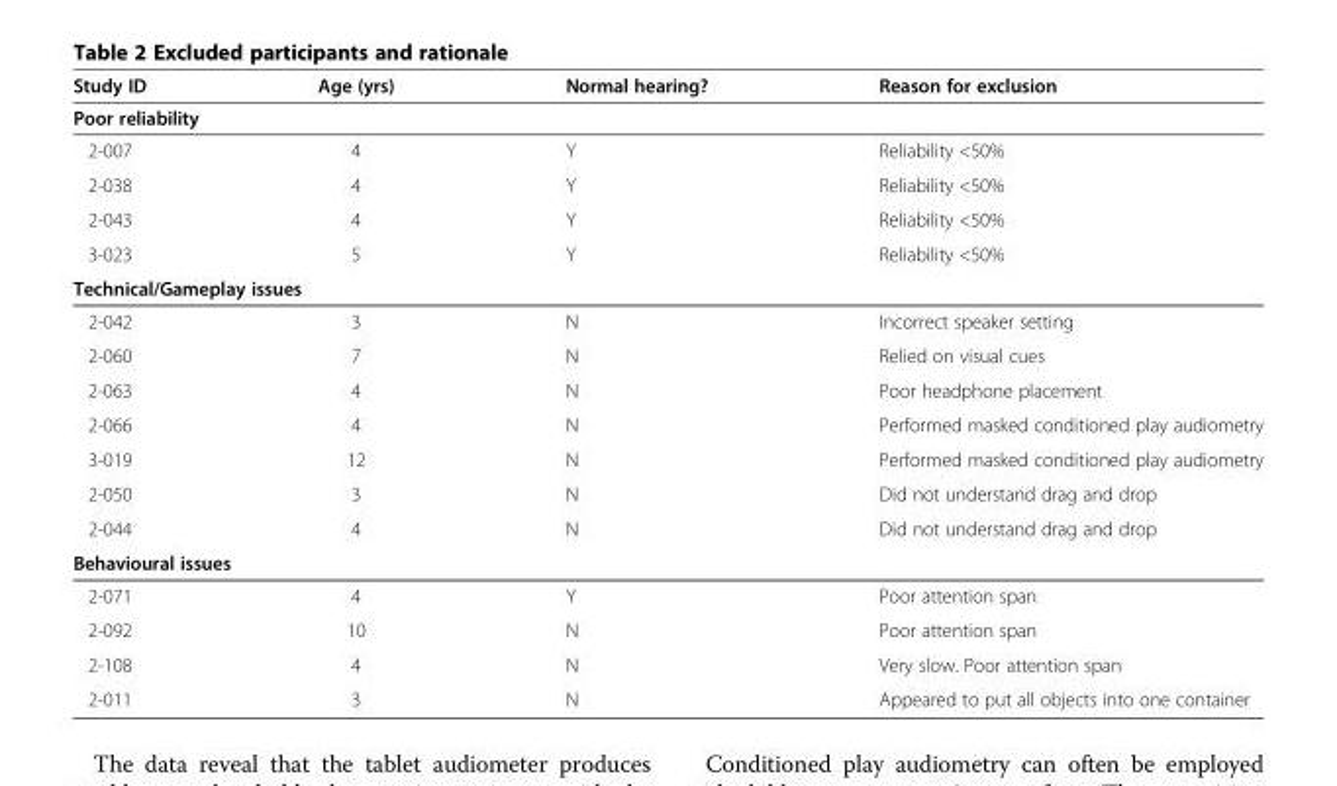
<table><thead><tr><td>Study ID</td><td>Age (yrs)</td><td>Normal hearing?</td><td>Reason for exclusion</td></tr></thead><tbody><tr><td colspan="4">Poor reliability</td></tr><tr><td>2-007</td><td>4</td><td>Y</td><td>Reliability &lt;50%</td></tr><tr><td>2-038</td><td>4</td><td>Y</td><td>Reliability &lt;50%</td></tr><tr><td>2-043</td><td>4</td><td>Y</td><td>Reliability &lt;50%</td></tr><tr><td>3-023</td><td>5</td><td>Y</td><td>Reliability &lt;50%</td></tr><tr><td colspan="4">Technical/Gameplay issues</td></tr><tr><td>2-042</td><td>3</td><td>N</td><td>Incorrect speaker setting</td></tr><tr><td>2-060</td><td>7</td><td>N</td><td>Relied on visual cues</td></tr><tr><td>2-063</td><td>4</td><td>N</td><td>Poor headphone placement</td></tr><tr><td>2-066</td><td>4</td><td>N</td><td>Performed masked conditioned play audiometry</td></tr><tr><td>3-019</td><td>12</td><td>N</td><td>Performed masked conditioned play audiometry</td></tr><tr><td>2-050</td><td>3</td><td>N</td><td>Did not understand drag and drop</td></tr><tr><td>2-044</td><td>4</td><td>N</td><td>Did not understand drag and drop</td></tr><tr><td colspan="4">Behavioural issues</td></tr><tr><td>2-071</td><td>4</td><td>Y</td><td>Poor attention span</td></tr><tr><td>2-092</td><td>10</td><td>N</td><td>Poor attention span</td></tr><tr><td>2-108</td><td>4</td><td>N</td><td>Very slow. Poor attention span</td></tr><tr><td>2-011</td><td>3</td><td>N</td><td>Appeared to put all objects into one container</td></tr></tbody></table>